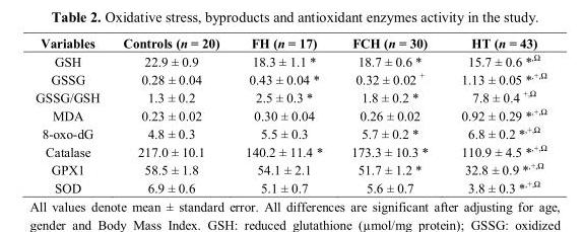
<table><thead><tr><td>Variables</td><td>Controls (n = 20)</td><td>FH (n = 17)</td><td>FCH (n = 30)</td><td>HT (n = 43)</td></tr></thead><tbody><tr><td>GSH</td><td>22.9 ± 0.9</td><td>18.3 ± 1.1 *</td><td>18.7 ± 0.6 *</td><td>15.7 ± 0.6 *,Ω</td></tr><tr><td>GSSG</td><td>0.28 ± 0.04</td><td>0.43 ± 0.04 *</td><td>0.32 ± 0.02 +</td><td>1.13 ± 0.05 *,+,Ω</td></tr><tr><td>GSSG/GSH</td><td>1.3 ± 0.2</td><td>2.5 ± 0.3 *</td><td>1.8 ± 0.2 *</td><td>7.8 ± 0.4 +,Ω</td></tr><tr><td>MDA</td><td>0.23 ± 0.02</td><td>0.30 ± 0.04</td><td>0.26 ± 0.02</td><td>0.92 ± 0.29 *,+,Ω</td></tr><tr><td>8-oxo-dG</td><td>4.8 ± 0.3</td><td>5.5 ± 0.3</td><td>5.7 ± 0.2 *</td><td>6.8 ± 0.2 *,+,Ω</td></tr><tr><td>Catalase</td><td>217.0 ± 10.1</td><td>140.2 ± 11.4 *</td><td>173.3 ± 10.3 *</td><td>110.9 ± 4.5 *,+,Ω</td></tr><tr><td>GPX1</td><td>58.5 ± 1.8</td><td>54.1 ± 2.1</td><td>51.7 ± 1.2 *</td><td>32.8 ± 0.9 *,+,Ω</td></tr><tr><td>SOD</td><td>6.9 ± 0.6</td><td>5.1 ± 0.7</td><td>5.6 ± 0.7</td><td>3.8 ± 0.3 *,+,Ω</td></tr></tbody></table>